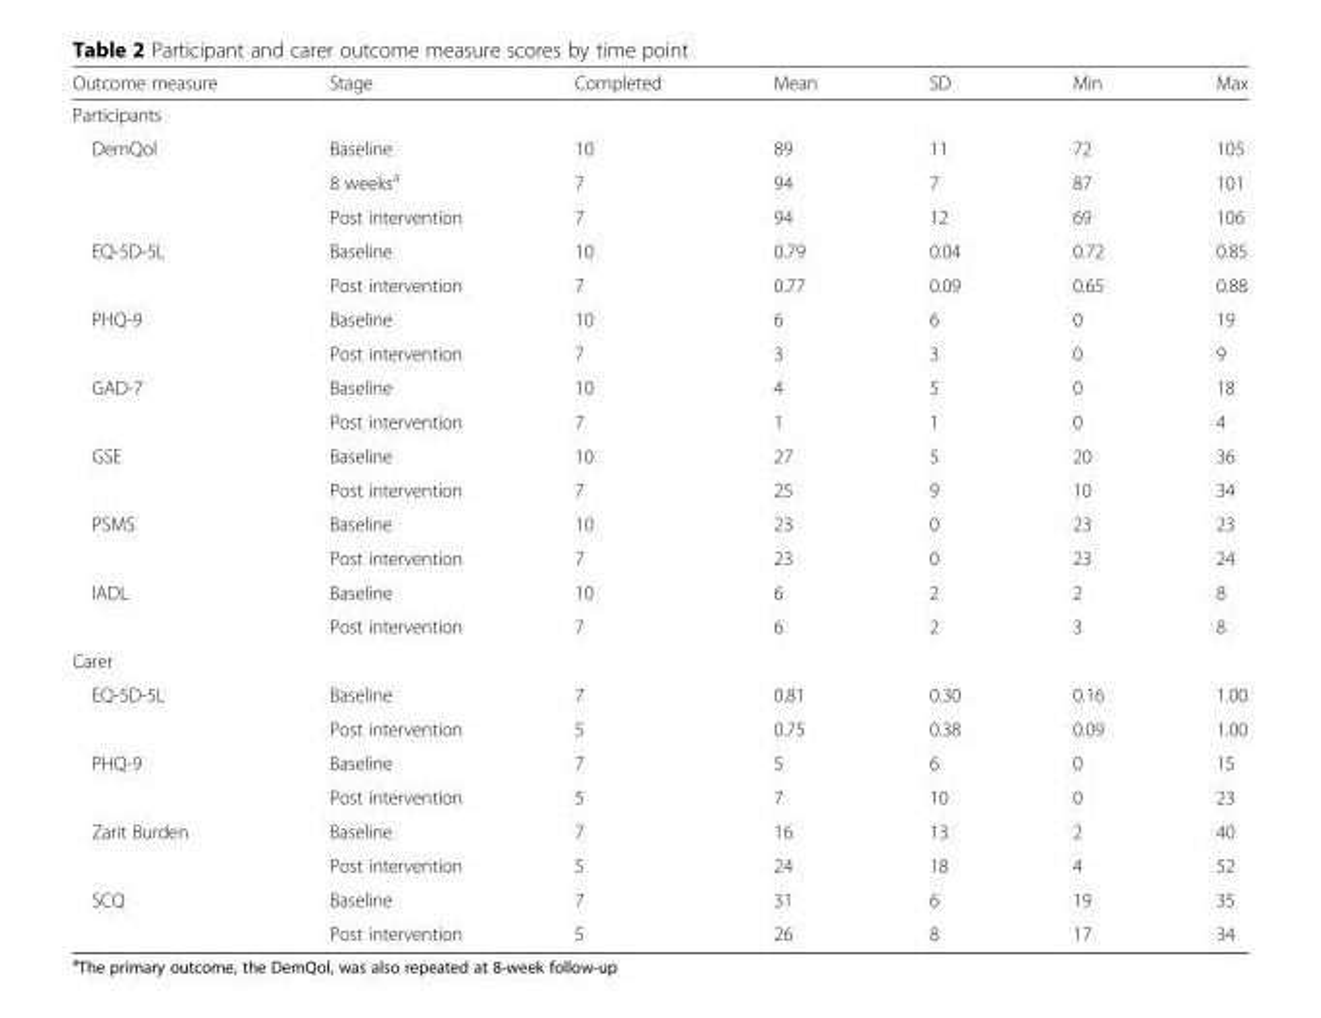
<table><thead><tr><td>Outcome measure</td><td>Stage</td><td>Completed</td><td>Mean</td><td>SD</td><td>Min</td><td>Max</td></tr></thead><tbody><tr><td colspan="7">Participants</td></tr><tr><td rowspan="3">DemQol</td><td>Baseline</td><td>10</td><td>89</td><td>11</td><td>72</td><td>105</td></tr><tr><td>8 weeks<sup>a</sup></td><td>7</td><td>94</td><td>7</td><td>87</td><td>101</td></tr><tr><td>Post intervention</td><td>7</td><td>94</td><td>12</td><td>69</td><td>106</td></tr><tr><td rowspan="2">EQ-5D-5L</td><td>Baseline</td><td>10</td><td>0.79</td><td>0.04</td><td>0.72</td><td>0.85</td></tr><tr><td>Post intervention</td><td>7</td><td>0.77</td><td>0.09</td><td>0.65</td><td>0.88</td></tr><tr><td rowspan="2">PHQ-9</td><td>Baseline</td><td>10</td><td>6</td><td>6</td><td>0</td><td>19</td></tr><tr><td>Post intervention</td><td>7</td><td>3</td><td>3</td><td>0</td><td>9</td></tr><tr><td rowspan="2">GAD-7</td><td>Baseline</td><td>10</td><td>4</td><td>5</td><td>0</td><td>18</td></tr><tr><td>Post intervention</td><td>7</td><td>1</td><td>1</td><td>0</td><td>4</td></tr><tr><td rowspan="2">GSE</td><td>Baseline</td><td>10</td><td>27</td><td>5</td><td>20</td><td>36</td></tr><tr><td>Post intervention</td><td>7</td><td>25</td><td>9</td><td>10</td><td>34</td></tr><tr><td rowspan="2">PSMS</td><td>Baseline</td><td>10</td><td>23</td><td>0</td><td>23</td><td>23</td></tr><tr><td>Post intervention</td><td>7</td><td>23</td><td>0</td><td>23</td><td>24</td></tr><tr><td rowspan="2">IADL</td><td>Baseline</td><td>10</td><td>6</td><td>2</td><td>2</td><td>8</td></tr><tr><td>Post intervention</td><td>7</td><td>6</td><td>2</td><td>3</td><td>8</td></tr><tr><td colspan="7">Carer</td></tr><tr><td rowspan="2">EQ-5D-5L</td><td>Baseline</td><td>7</td><td>0.81</td><td>0.30</td><td>0.16</td><td>1.00</td></tr><tr><td>Post intervention</td><td>5</td><td>0.75</td><td>0.38</td><td>0.09</td><td>1.00</td></tr><tr><td rowspan="2">PHQ-9</td><td>Baseline</td><td>7</td><td>5</td><td>6</td><td>0</td><td>15</td></tr><tr><td>Post intervention</td><td>5</td><td>7</td><td>10</td><td>0</td><td>23</td></tr><tr><td rowspan="2">Zarit Burden</td><td>Baseline</td><td>7</td><td>16</td><td>13</td><td>2</td><td>40</td></tr><tr><td>Post intervention</td><td>5</td><td>24</td><td>18</td><td>4</td><td>52</td></tr><tr><td rowspan="2">SCQ</td><td>Baseline</td><td>7</td><td>31</td><td>6</td><td>19</td><td>35</td></tr><tr><td>Post intervention</td><td>5</td><td>26</td><td>8</td><td>17</td><td>34</td></tr></tbody></table>